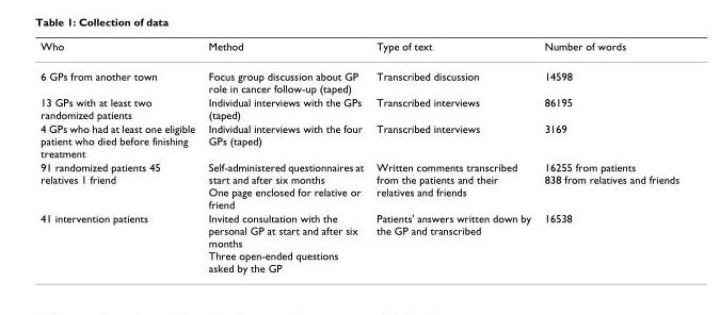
<table><thead><tr><td>Who</td><td>Method</td><td>Type of text</td><td>Number of words</td></tr></thead><tbody><tr><td>6 GPs from another town</td><td>Focus group discussion about GP role in cancer follow-up (taped)</td><td>Transcribed discussion</td><td>14598</td></tr><tr><td>13 GPs with at least two randomized patients</td><td>Individual interviews with the GPs (taped)</td><td>Transcribed interviews</td><td>86195</td></tr><tr><td>4 GPs who had at least one eligible patient who died before finishing treatment</td><td>Individual interviews with the four GPs (taped)</td><td>Transcribed interviews</td><td>3169</td></tr><tr><td>91 randomized patients 45 relatives 1 friend</td><td>Self-administered questionnaires at start and after six months One page enclosed for relative or friend</td><td>Written comments transcribed from the patients and their relatives and friends</td><td>16255 from patients 838 from relatives and friends</td></tr><tr><td>41 intervention patients</td><td>Invited consultation with the personal GP at start and after six months Three open-ended questions asked by the GP</td><td>Patients&#x27; answers written down by the GP and transcribed</td><td>16538</td></tr></tbody></table>